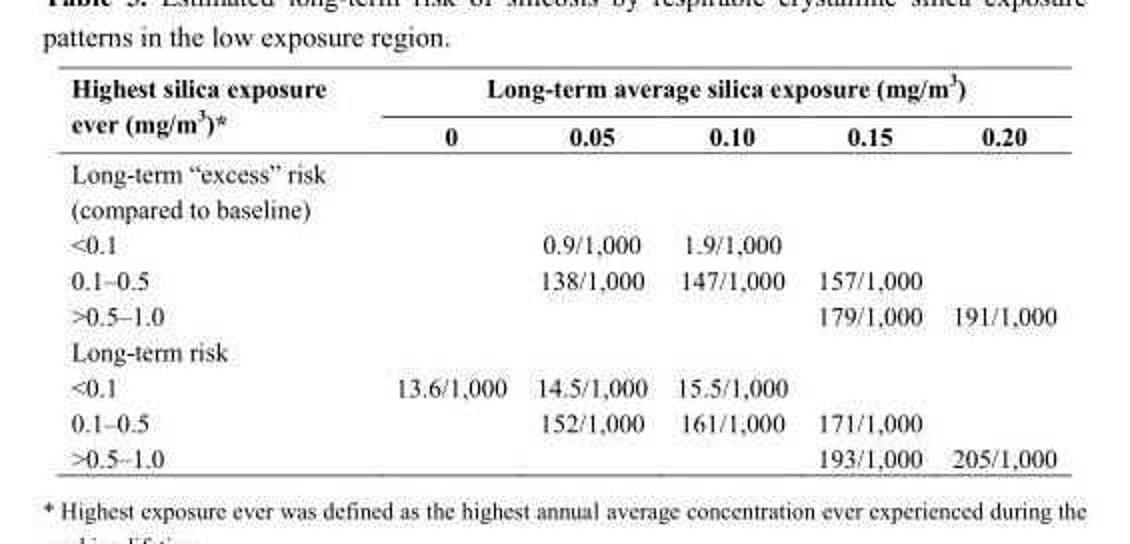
<table><thead><tr><td rowspan="2">Highest silica exposure ever (mg/m<sup>3</sup>)*</td><td colspan="5">Long-term average silica exposure (mg/m<sup>3</sup>)</td></tr><tr><td>0</td><td>0.05</td><td>0.10</td><td>0.15</td><td>0.20</td></tr></thead><tbody><tr><td colspan="6">Long-term ―excess‖ risk (compared to baseline)</td></tr><tr><td>&lt;0.1</td><td></td><td>0.9/1,000</td><td>1.9/1,000</td><td></td><td></td></tr><tr><td>0.1–0.5</td><td></td><td>138/1,000</td><td>147/1,000</td><td>157/1,000</td><td></td></tr><tr><td>&gt;0.5–1.0</td><td></td><td></td><td></td><td>179/1,000</td><td>191/1,000</td></tr><tr><td colspan="6">Long-term risk</td></tr><tr><td>&lt;0.1</td><td>13.6/1,000</td><td>14.5/1,000</td><td>15.5/1,000</td><td></td><td></td></tr><tr><td>0.1–0.5</td><td></td><td>152/1,000</td><td>161/1,000</td><td>171/1,000</td><td></td></tr><tr><td>&gt;0.5–1.0</td><td></td><td></td><td></td><td>193/1,000</td><td>205/1,000</td></tr></tbody></table>